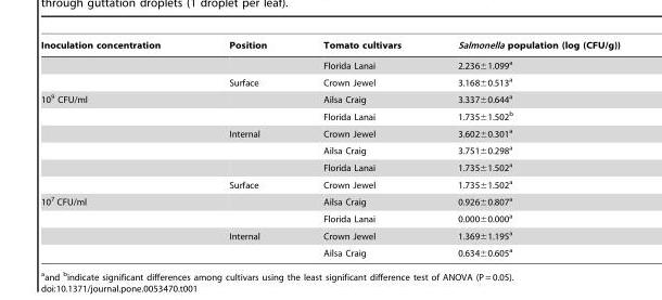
<table><thead><tr><td>Inoculation concentration</td><td>Position</td><td>Tomato cultivars</td><td>Salmonella population (log (CFU/g))</td></tr></thead><tbody><tr><td></td><td></td><td>Florida Lanai</td><td>2.236±1.099<sup>a</sup></td></tr><tr><td></td><td>Surface</td><td>Crown Jewel</td><td>3.168±0.513<sup>a</sup></td></tr><tr><td rowspan="6">10<sup>9</sup> CFU/ml</td><td></td><td>Ailsa Craig</td><td>3.337±0.644<sup>a</sup></td></tr><tr><td></td><td>Florida Lanai</td><td>1.735±1.502<sup>b</sup></td></tr><tr><td>Internal</td><td>Crown Jewel</td><td>3.602±0.301<sup>a</sup></td></tr><tr><td></td><td>Ailsa Craig</td><td>3.751±0.298<sup>a</sup></td></tr><tr><td></td><td>Florida Lanai</td><td>1.735±1.502<sup>a</sup></td></tr><tr><td>Surface</td><td>Crown Jewel</td><td>1.735±1.502<sup>a</sup></td></tr><tr><td rowspan="4">10<sup>7</sup> CFU/ml</td><td></td><td>Ailsa Craig</td><td>0.926±0.807<sup>a</sup></td></tr><tr><td></td><td>Florida Lanai</td><td>0.000±0.000<sup>a</sup></td></tr><tr><td>Internal</td><td>Crown Jewel</td><td>1.369±1.195<sup>a</sup></td></tr><tr><td></td><td>Ailsa Craig</td><td>0.634±0.605<sup>a</sup></td></tr></tbody></table>